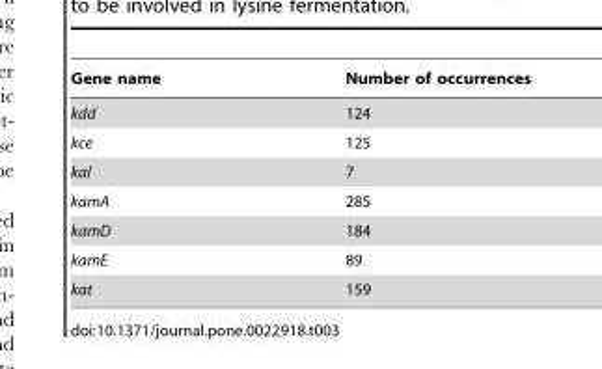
<table><thead><tr><td>Gene name</td><td>Number of occurrences</td></tr></thead><tbody><tr><td>kdd</td><td>124</td></tr><tr><td>kce</td><td>125</td></tr><tr><td>kal</td><td>7</td></tr><tr><td>kamA</td><td>285</td></tr><tr><td>kamD</td><td>184</td></tr><tr><td>kamE</td><td>89</td></tr><tr><td>kat</td><td>159</td></tr></tbody></table>